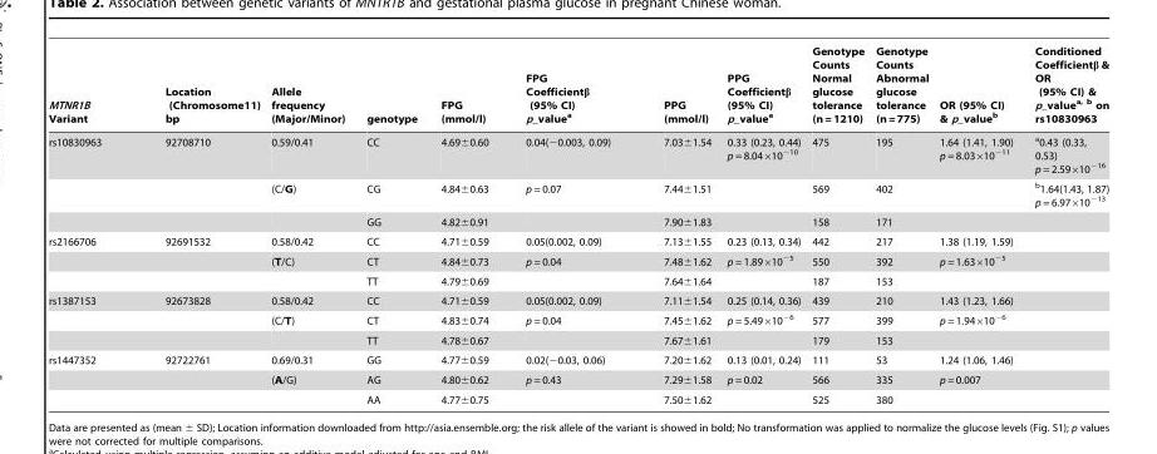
<table><thead><tr><td>MTNR1B Variant</td><td>Location (Chromosome11) bp</td><td>Allele frequency (Major/Minor)</td><td>genotype</td><td>FPG (mmol/l)</td><td>FPG Coefficientβ (95% CI) p_value<sup>a</sup></td><td>PPG (mmol/l)</td><td>PPG Coefficientβ (95% CI) p_value<sup>a</sup></td><td>Genotype Counts Normal glucose tolerance (n = 1210)</td><td>Genotype Counts Abnormal glucose tolerance (n = 775)</td><td>OR (95% CI) &amp; p_value<sup>b</sup></td><td>Conditioned Coefficientβ &amp; OR (95% CI) &amp; p_valuea, b on rs10830963</td></tr></thead><tbody><tr><td rowspan="3">rs10830963</td><td>92708710</td><td>0.59/0.41</td><td>CC</td><td>4.69±0.60</td><td>0.04(−0.003, 0.09)</td><td>7.03±1.54</td><td>0.33 (0.23, 0.44) p = 8.04×10<sup>−10</sup></td><td>475</td><td>195</td><td>1.64 (1.41, 1.90) p = 8.03×10<sup>−11</sup></td><td>a0.43 (0.33, 0.53) p = 2.59×10<sup>−16</sup></td></tr><tr><td></td><td>(C/G)</td><td>CG</td><td>4.84±0.63</td><td>p = 0.07</td><td>7.44±1.51</td><td></td><td>569</td><td>402</td><td></td><td>b1.64(1.43, 1.87) p = 6.97×10<sup>−13</sup></td></tr><tr><td></td><td></td><td>GG</td><td>4.82±0.91</td><td></td><td>7.90±1.83</td><td></td><td>158</td><td>171</td><td></td><td></td></tr><tr><td rowspan="3">rs2166706</td><td>92691532</td><td>0.58/0.42</td><td>CC</td><td>4.71±0.59</td><td>0.05(0.002, 0.09)</td><td>7.13±1.55</td><td>0.23 (0.13, 0.34)</td><td>442</td><td>217</td><td>1.38 (1.19, 1.59)</td><td></td></tr><tr><td></td><td>(T/C)</td><td>CT</td><td>4.84±0.73</td><td>p = 0.04</td><td>7.48±1.62</td><td>p = 1.89×10<sup>−5</sup></td><td>550</td><td>392</td><td>p = 1.63×10<sup>−5</sup></td><td></td></tr><tr><td></td><td></td><td>TT</td><td>4.79±0.69</td><td></td><td>7.64±1.64</td><td></td><td>187</td><td>153</td><td></td><td></td></tr><tr><td rowspan="3">rs1387153</td><td>92673828</td><td>0.58/0.42</td><td>CC</td><td>4.71±0.59</td><td>0.05(0.002, 0.09)</td><td>7.11±1.54</td><td>0.25 (0.14, 0.36)</td><td>439</td><td>210</td><td>1.43 (1.23, 1.66)</td><td></td></tr><tr><td></td><td>(C/T)</td><td>CT</td><td>4.83±0.74</td><td>p = 0.04</td><td>7.45±1.62</td><td>p = 5.49×10<sup>−6</sup></td><td>577</td><td>399</td><td>p = 1.94×10<sup>−6</sup></td><td></td></tr><tr><td></td><td></td><td>TT</td><td>4.78±0.67</td><td></td><td>7.67±1.61</td><td></td><td>179</td><td>153</td><td></td><td></td></tr><tr><td rowspan="3">rs1447352</td><td>92722761</td><td>0.69/0.31</td><td>GG</td><td>4.77±0.59</td><td>0.02(−0.03, 0.06)</td><td>7.20±1.62</td><td>0.13 (0.01, 0.24)</td><td>111</td><td>53</td><td>1.24 (1.06, 1.46)</td><td></td></tr><tr><td></td><td>(A/G)</td><td>AG</td><td>4.80±0.62</td><td>p = 0.43</td><td>7.29±1.58</td><td>p = 0.02</td><td>566</td><td>335</td><td>p = 0.007</td><td></td></tr><tr><td></td><td></td><td>AA</td><td>4.77±0.75</td><td></td><td>7.50±1.62</td><td></td><td>525</td><td>380</td><td></td><td></td></tr></tbody></table>